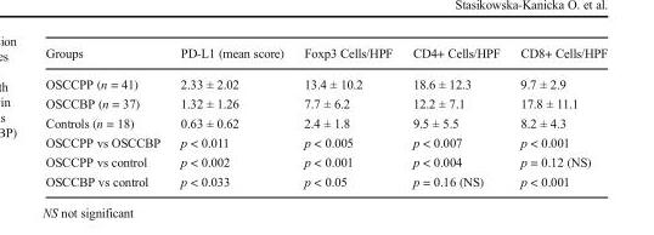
<table><thead><tr><td>Groups</td><td>PD-L1 (mean score)</td><td>Foxp3 Cells/HPF</td><td>CD4+ Cells/HPF</td><td>CD8+ Cells/HPF</td></tr></thead><tbody><tr><td>OSCCPP (n = 41)</td><td>2.33 ± 2.02</td><td>13.4 ± 10.2</td><td>18.6 ± 12.3</td><td>9.7 ± 2.9</td></tr><tr><td>OSCCBP (n = 37)</td><td>1.32 ± 1.26</td><td>7.7 ± 6.2</td><td>12.2 ± 7.1</td><td>17.8 ± 11.1</td></tr><tr><td>Controls (n = 18)</td><td>0.63 ± 0.62</td><td>2.4 ± 1.8</td><td>9.5 ± 5.5</td><td>8.2 ± 4.3</td></tr><tr><td>OSCCPP vs OSCCBP</td><td>p &lt; 0.011</td><td>p &lt; 0.005</td><td>p &lt; 0.007</td><td>p &lt; 0.001</td></tr><tr><td>OSCCPP vs control</td><td>p &lt; 0.002</td><td>p &lt; 0.001</td><td>p &lt; 0.004</td><td>p = 0.12 (NS)</td></tr><tr><td>OSCCBP vs control</td><td>p &lt; 0.033</td><td>p &lt; 0.05</td><td>p = 0.16 (NS)</td><td>p &lt; 0.001</td></tr></tbody></table>